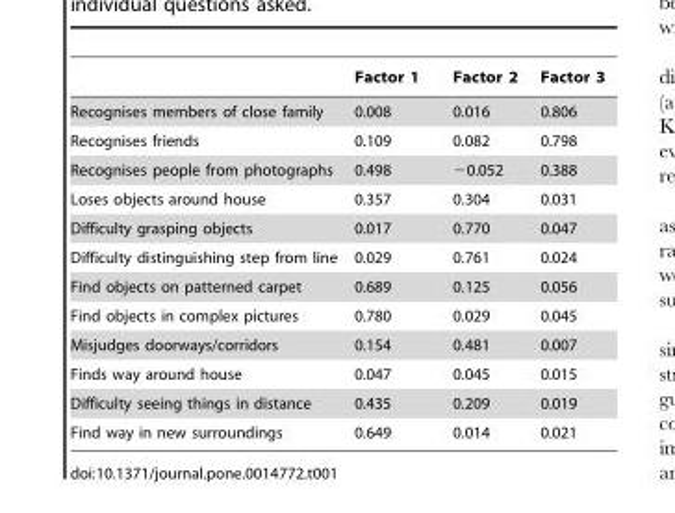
<table><thead><tr><td></td><td>Factor 1</td><td>Factor 2</td><td>Factor 3</td></tr></thead><tbody><tr><td>Recognises members of close family</td><td>0.008</td><td>0.016</td><td>0.806</td></tr><tr><td>Recognises friends</td><td>0.109</td><td>0.082</td><td>0.798</td></tr><tr><td>Recognises people from photographs</td><td>0.498</td><td>−0.052</td><td>0.388</td></tr><tr><td>Loses objects around house</td><td>0.357</td><td>0.304</td><td>0.031</td></tr><tr><td>Difficulty grasping objects</td><td>0.017</td><td>0.770</td><td>0.047</td></tr><tr><td>Difficulty distinguishing step from line</td><td>0.029</td><td>0.761</td><td>0.024</td></tr><tr><td>Find objects on patterned carpet</td><td>0.689</td><td>0.125</td><td>0.056</td></tr><tr><td>Find objects in complex pictures</td><td>0.780</td><td>0.029</td><td>0.045</td></tr><tr><td>Misjudges doorways/corridors</td><td>0.154</td><td>0.481</td><td>0.007</td></tr><tr><td>Finds way around house</td><td>0.047</td><td>0.045</td><td>0.015</td></tr><tr><td>Difficulty seeing things in distance</td><td>0.435</td><td>0.209</td><td>0.019</td></tr><tr><td>Find way in new surroundings</td><td>0.649</td><td>0.014</td><td>0.021</td></tr></tbody></table>